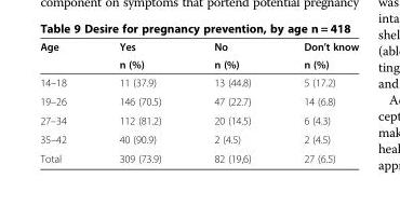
<table><thead><tr><td rowspan="2">Age</td><td rowspan="2">Yes n (%)</td><td rowspan="2">No n (%)</td><td rowspan="2">Don’t know n (%)</td></tr><tr></tr></thead><tbody><tr><td>14–18</td><td>11 (37.9)</td><td>13 (44.8)</td><td>5 (17.2)</td></tr><tr><td>19–26</td><td>146 (70.5)</td><td>47 (22.7)</td><td>14 (6.8)</td></tr><tr><td>27–34</td><td>112 (81.2)</td><td>20 (14.5)</td><td>6 (4.3)</td></tr><tr><td>35–42</td><td>40 (90.9)</td><td>2 (4.5)</td><td>2 (4.5)</td></tr><tr><td>Total</td><td>309 (73.9)</td><td>82 (19,6)</td><td>27 (6.5)</td></tr></tbody></table>